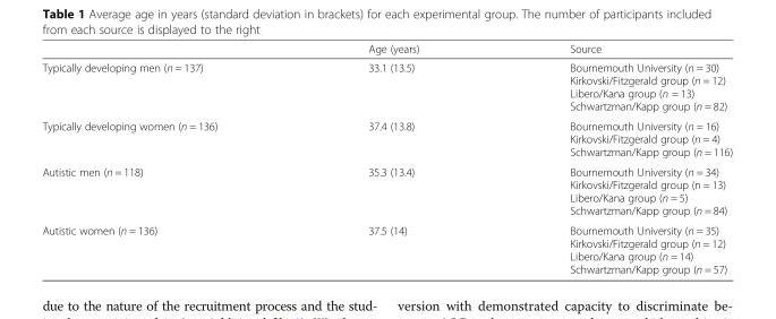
<table><thead><tr><td></td><td>Age (years)</td><td>Source</td></tr></thead><tbody><tr><td>Typically developing men (n = 137)</td><td>33.1 (13.5)</td><td>Bournemouth University (n = 30) Kirkovski/Fitzgerald group (n = 12) Libero/Kana group (n = 13) Schwartzman/Kapp group (n = 82)</td></tr><tr><td>Typically developing women (n = 136)</td><td>37.4 (13.8)</td><td>Bournemouth University (n = 16) Kirkovski/Fitzgerald group (n = 4) Schwartzman/Kapp group (n = 116)</td></tr><tr><td>Autistic men (n = 118)</td><td>35.3 (13.4)</td><td>Bournemouth University (n = 34) Kirkovski/Fitzgerald group (n = 13) Libero/Kana group (n = 5) Schwartzman/Kapp group (n = 84)</td></tr><tr><td>Autistic women (n = 136)</td><td>37.5 (14)</td><td>Bournemouth University (n = 35) Kirkovski/Fitzgerald group (n = 12) Libero/Kana group (n = 14) Schwartzman/Kapp group (n = 57)</td></tr></tbody></table>